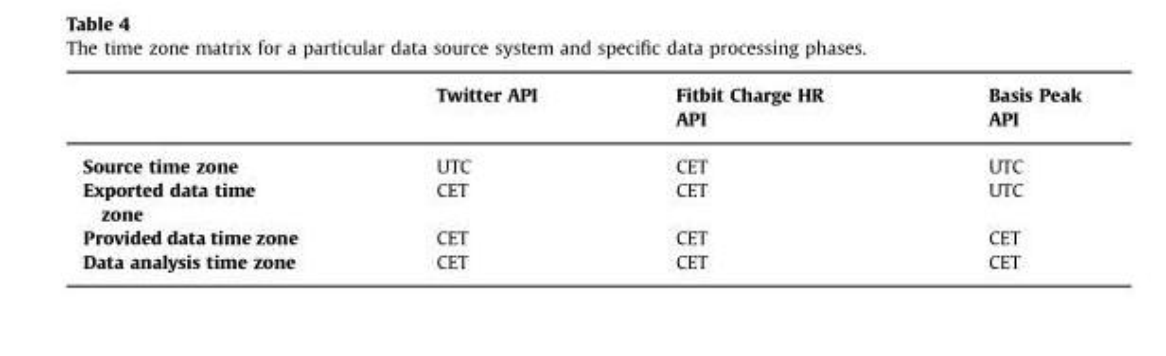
<table><thead><tr><td></td><td>Twitter API</td><td>Fitbit Charge HR API</td><td>Basis Peak API</td></tr></thead><tbody><tr><td>Source time zone</td><td>UTC</td><td>CET</td><td>UTC</td></tr><tr><td>Exported data time zone</td><td>CET</td><td>CET</td><td>UTC</td></tr><tr><td>Provided data time zone</td><td>CET</td><td>CET</td><td>CET</td></tr><tr><td>Data analysis time zone</td><td>CET</td><td>CET</td><td>CET</td></tr></tbody></table>